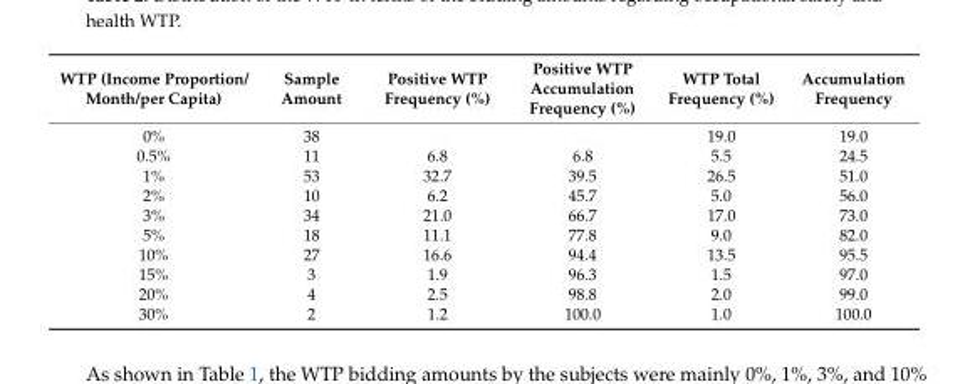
<table><thead><tr><td>WTP (Income Proportion/ Month/per Capita)</td><td>Sample Amount</td><td>Positive WTP Frequency (%)</td><td>Positive WTP Accumulation Frequency (%)</td><td>WTP Total Frequency (%)</td><td>Accumulation Frequency</td></tr></thead><tbody><tr><td>0%</td><td>38</td><td></td><td></td><td>19.0</td><td>19.0</td></tr><tr><td>0.5%</td><td>11</td><td>6.8</td><td>6.8</td><td>5.5</td><td>24.5</td></tr><tr><td>1%</td><td>53</td><td>32.7</td><td>39.5</td><td>26.5</td><td>51.0</td></tr><tr><td>2%</td><td>10</td><td>6.2</td><td>45.7</td><td>5.0</td><td>56.0</td></tr><tr><td>3%</td><td>34</td><td>21.0</td><td>66.7</td><td>17.0</td><td>73.0</td></tr><tr><td>5%</td><td>18</td><td>11.1</td><td>77.8</td><td>9.0</td><td>82.0</td></tr><tr><td>10%</td><td>27</td><td>16.6</td><td>94.4</td><td>13.5</td><td>95.5</td></tr><tr><td>15%</td><td>3</td><td>1.9</td><td>96.3</td><td>1.5</td><td>97.0</td></tr><tr><td>20%</td><td>4</td><td>2.5</td><td>98.8</td><td>2.0</td><td>99.0</td></tr><tr><td>30%</td><td>2</td><td>1.2</td><td>100.0</td><td>1.0</td><td>100.0</td></tr></tbody></table>